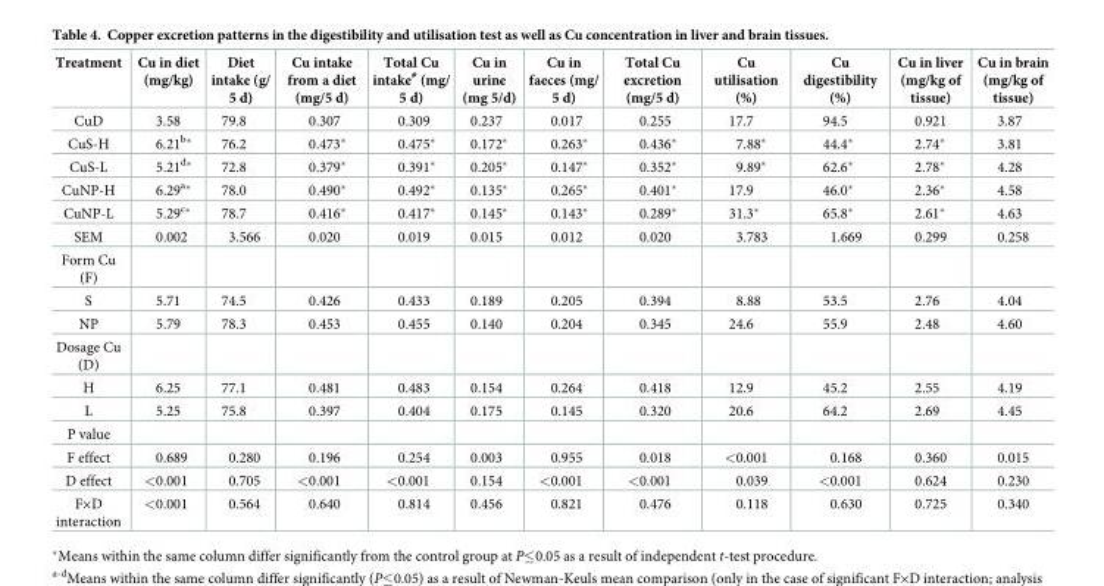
<table><thead><tr><td>Treatment</td><td>Cu in diet (mg/kg)</td><td>Diet intake (g/ 5 d)</td><td>Cu intake from a diet (mg/5 d)</td><td>Total Cu intake<sup>#</sup> (mg/ 5 d)</td><td>Cu in urine (mg 5/d)</td><td>Cu in faeces (mg/ 5 d)</td><td>Total Cu excretion (mg/5 d)</td><td>Cu utilisation (%)</td><td>Cu digestibility (%)</td><td>Cu in liver (mg/kg of tissue)</td><td>Cu in brain (mg/kg of tissue)</td></tr></thead><tbody><tr><td>CuD</td><td>3.58</td><td>79.8</td><td>0.307</td><td>0.309</td><td>0.237</td><td>0.017</td><td>0.255</td><td>17.7</td><td>94.5</td><td>0.921</td><td>3.87</td></tr><tr><td>CuS-H</td><td>6.21<sup>b</sup>*</td><td>76.2</td><td>0.473*</td><td>0.475*</td><td>0.172*</td><td>0.263*</td><td>0.436*</td><td>7.88*</td><td>44.4*</td><td>2.74*</td><td>3.81</td></tr><tr><td>CuS-L</td><td>5.21<sup>d</sup>*</td><td>72.8</td><td>0.379*</td><td>0.391*</td><td>0.205*</td><td>0.147*</td><td>0.352*</td><td>9.89*</td><td>62.6*</td><td>2.78*</td><td>4.28</td></tr><tr><td>CuNP-H</td><td>6.29<sup>a</sup>*</td><td>78.0</td><td>0.490*</td><td>0.492*</td><td>0.135*</td><td>0.265*</td><td>0.401*</td><td>17.9</td><td>46.0*</td><td>2.36*</td><td>4.58</td></tr><tr><td>CuNP-L</td><td>5.29<sup>c</sup>*</td><td>78.7</td><td>0.416*</td><td>0.417*</td><td>0.145*</td><td>0.143*</td><td>0.289*</td><td>31.3*</td><td>65.8*</td><td>2.61*</td><td>4.63</td></tr><tr><td>SEM</td><td>0.002</td><td>3.566</td><td>0.020</td><td>0.019</td><td>0.015</td><td>0.012</td><td>0.020</td><td>3.783</td><td>1.669</td><td>0.299</td><td>0.258</td></tr><tr><td colspan="12">Form Cu (F)</td></tr><tr><td>S</td><td>5.71</td><td>74.5</td><td>0.426</td><td>0.433</td><td>0.189</td><td>0.205</td><td>0.394</td><td>8.88</td><td>53.5</td><td>2.76</td><td>4.04</td></tr><tr><td>NP</td><td>5.79</td><td>78.3</td><td>0.453</td><td>0.455</td><td>0.140</td><td>0.204</td><td>0.345</td><td>24.6</td><td>55.9</td><td>2.48</td><td>4.60</td></tr><tr><td colspan="12">Dosage Cu (D)</td></tr><tr><td>H</td><td>6.25</td><td>77.1</td><td>0.481</td><td>0.483</td><td>0.154</td><td>0.264</td><td>0.418</td><td>12.9</td><td>45.2</td><td>2.55</td><td>4.19</td></tr><tr><td>L</td><td>5.25</td><td>75.8</td><td>0.397</td><td>0.404</td><td>0.175</td><td>0.145</td><td>0.320</td><td>20.6</td><td>64.2</td><td>2.69</td><td>4.45</td></tr><tr><td colspan="12">P value</td></tr><tr><td>F effect</td><td>0.689</td><td>0.280</td><td>0.196</td><td>0.254</td><td>0.003</td><td>0.955</td><td>0.018</td><td>&lt;0.001</td><td>0.168</td><td>0.360</td><td>0.015</td></tr><tr><td>D effect</td><td>&lt;0.001</td><td>0.705</td><td>&lt;0.001</td><td>&lt;0.001</td><td>0.154</td><td>&lt;0.001</td><td>&lt;0.001</td><td>0.039</td><td>&lt;0.001</td><td>0.624</td><td>0.230</td></tr><tr><td>F×D interaction</td><td>&lt;0.001</td><td>0.564</td><td>0.640</td><td>0.814</td><td>0.456</td><td>0.821</td><td>0.476</td><td>0.118</td><td>0.630</td><td>0.725</td><td>0.340</td></tr></tbody></table>